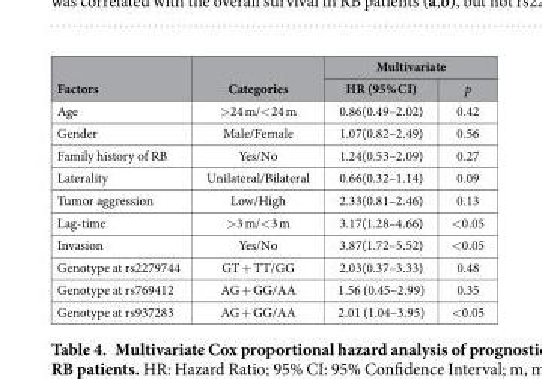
<table><thead><tr><td rowspan="2">Factors</td><td rowspan="2">Categories</td><td colspan="2">Multivariate</td></tr><tr><td>HR (95% CI)</td><td>p</td></tr></thead><tbody><tr><td>Age</td><td>&gt; 24 m/&lt; 24 m</td><td>0.86(0.49–2.02)</td><td>0.42</td></tr><tr><td>Gender</td><td>Male/Female</td><td>1.07(0.82–2.49)</td><td>0.56</td></tr><tr><td>Family history of RB</td><td>Yes/No</td><td>1.24(0.53–2.09)</td><td>0.27</td></tr><tr><td>Laterality</td><td>Unilateral/Bilateral</td><td>0.66(0.32–1.14)</td><td>0.09</td></tr><tr><td>Tumor aggression</td><td>Low/High</td><td>2.33(0.81–2.46)</td><td>0.13</td></tr><tr><td>Lag-time</td><td>&gt; 3 m/&lt; 3 m</td><td>3.17(1.28–4.66)</td><td>&lt; 0.05</td></tr><tr><td>Invasion</td><td>Yes/No</td><td>3.87(1.72–5.52)</td><td>&lt; 0.05</td></tr><tr><td>Genotype at rs2279744</td><td>GT + TT/GG</td><td>2.03(0.37–3.33)</td><td>0.48</td></tr><tr><td>Genotype at rs769412</td><td>AG + GG/AA</td><td>1.56 (0.45–2.99)</td><td>0.35</td></tr><tr><td>Genotype at rs937283</td><td>AG + GG/AA</td><td>2.01 (1.04–3.95)</td><td>&lt; 0.05</td></tr></tbody></table>